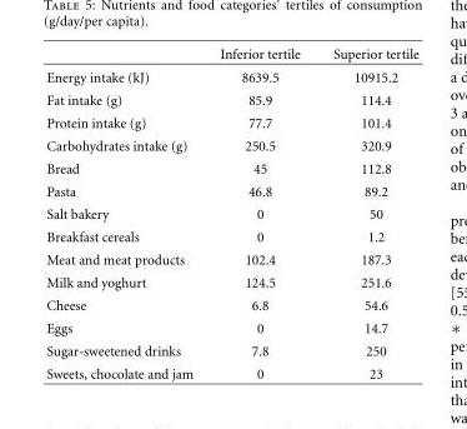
<table><thead><tr><td></td><td>Inferior tertile</td><td>Superior tertile</td></tr></thead><tbody><tr><td>Energy intake (kJ)</td><td>8639.5</td><td>10915.2</td></tr><tr><td>Fat intake (g)</td><td>85.9</td><td>114.4</td></tr><tr><td>Protein intake (g)</td><td>77.7</td><td>101.4</td></tr><tr><td>Carbohydrates intake (g)</td><td>250.5</td><td>320.9</td></tr><tr><td>Bread</td><td>45</td><td>112.8</td></tr><tr><td>Pasta</td><td>46.8</td><td>89.2</td></tr><tr><td>Salt bakery</td><td>0</td><td>50</td></tr><tr><td>Breakfast cereals</td><td>0</td><td>1.2</td></tr><tr><td>Meat and meat products</td><td>102.4</td><td>187.3</td></tr><tr><td>Milk and yoghurt</td><td>124.5</td><td>251.6</td></tr><tr><td>Cheese</td><td>6.8</td><td>54.6</td></tr><tr><td>Eggs</td><td>0</td><td>14.7</td></tr><tr><td>Sugar-sweetened drinks</td><td>7.8</td><td>250</td></tr><tr><td>Sweets, chocolate and jam</td><td>0</td><td>23</td></tr></tbody></table>